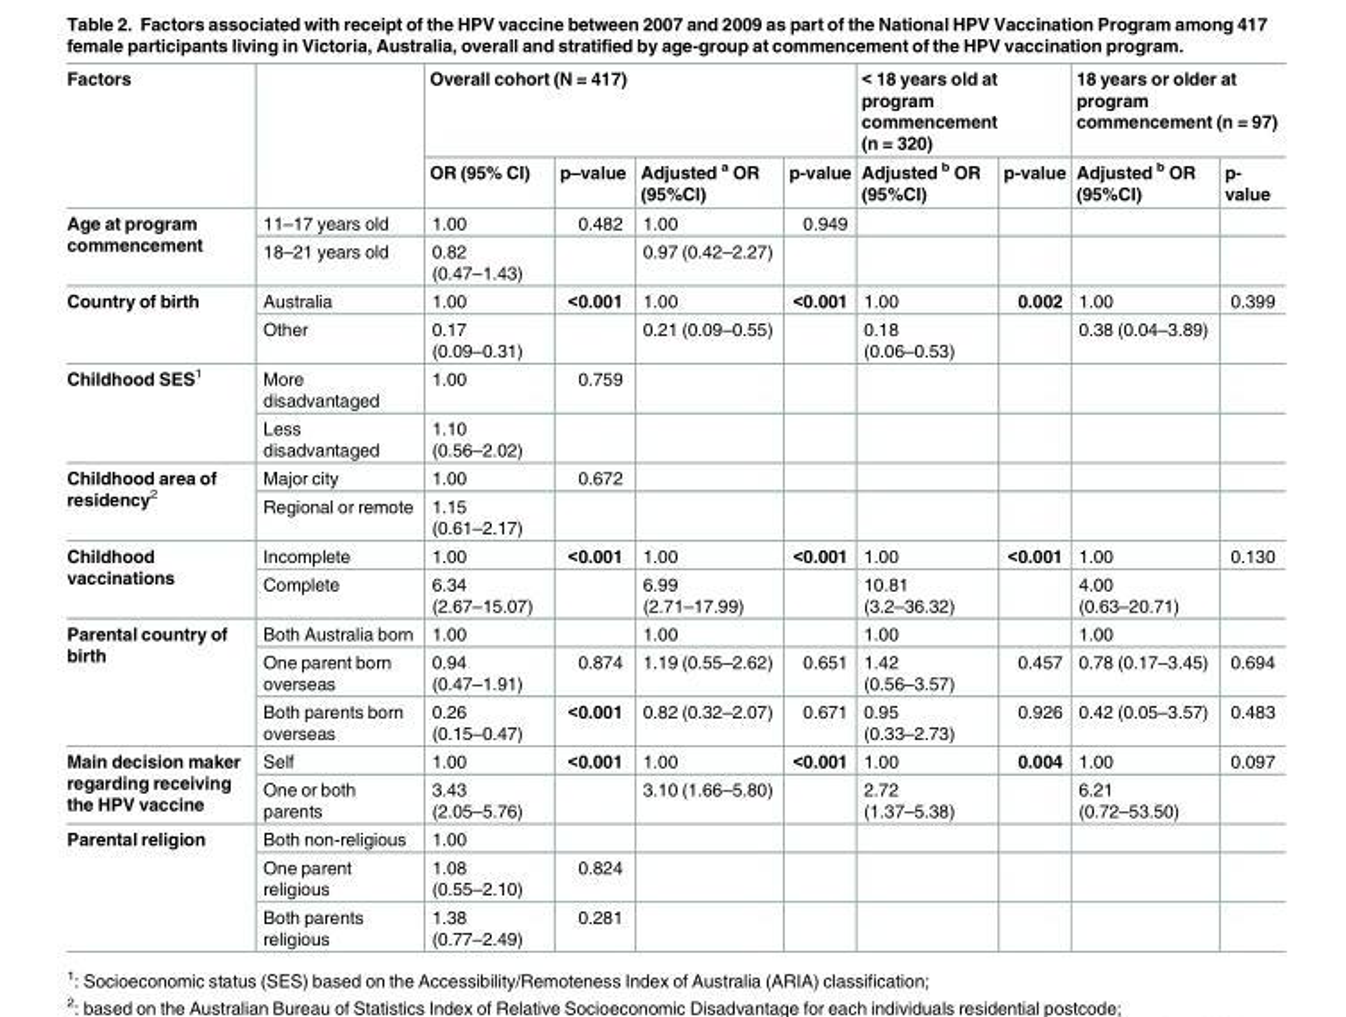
<table><thead><tr><td rowspan="2">Factors</td><td rowspan="2"></td><td colspan="4">Overall cohort (N = 417)</td><td colspan="2">&lt; 18 years old at program commencement (n = 320)</td><td colspan="2">18 years or older at program commencement (n = 97)</td></tr><tr><td>OR (95% CI)</td><td>p–value</td><td>Adjusted <sup>a</sup> OR (95%CI)</td><td>p-value</td><td>Adjusted <sup>b</sup> OR (95%CI)</td><td>p-value</td><td>Adjusted <sup>b</sup> OR (95%CI)</td><td>p- value</td></tr></thead><tbody><tr><td rowspan="2">Age at program commencement</td><td>11–17 years old</td><td>1.00</td><td>0.482</td><td>1.00</td><td>0.949</td><td></td><td></td><td></td><td></td></tr><tr><td>18–21 years old</td><td>0.82 (0.47–1.43)</td><td></td><td>0.97 (0.42–2.27)</td><td></td><td></td><td></td><td></td><td></td></tr><tr><td rowspan="2">Country of birth</td><td>Australia</td><td>1.00</td><td>&lt;0.001</td><td>1.00</td><td>&lt;0.001</td><td>1.00</td><td>0.002</td><td>1.00</td><td>0.399</td></tr><tr><td>Other</td><td>0.17 (0.09–0.31)</td><td></td><td>0.21 (0.09–0.55)</td><td></td><td>0.18 (0.06–0.53)</td><td></td><td>0.38 (0.04–3.89)</td><td></td></tr><tr><td rowspan="2">Childhood SES<sup>1</sup></td><td>More disadvantaged</td><td>1.00</td><td>0.759</td><td></td><td></td><td></td><td></td><td></td><td></td></tr><tr><td>Less disadvantaged</td><td>1.10 (0.56–2.02)</td><td></td><td></td><td></td><td></td><td></td><td></td><td></td></tr><tr><td rowspan="2">Childhood area of residency<sup>2</sup></td><td>Major city</td><td>1.00</td><td>0.672</td><td></td><td></td><td></td><td></td><td></td><td></td></tr><tr><td>Regional or remote</td><td>1.15 (0.61–2.17)</td><td></td><td></td><td></td><td></td><td></td><td></td><td></td></tr><tr><td rowspan="2">Childhood vaccinations</td><td>Incomplete</td><td>1.00</td><td>&lt;0.001</td><td>1.00</td><td>&lt;0.001</td><td>1.00</td><td>&lt;0.001</td><td>1.00</td><td>0.130</td></tr><tr><td>Complete</td><td>6.34 (2.67–15.07)</td><td></td><td>6.99 (2.71–17.99)</td><td></td><td>10.81 (3.2–36.32)</td><td></td><td>4.00 (0.63–20.71)</td><td></td></tr><tr><td rowspan="3">Parental country of birth</td><td>Both Australia born</td><td>1.00</td><td></td><td>1.00</td><td></td><td>1.00</td><td></td><td>1.00</td><td></td></tr><tr><td>One parent born overseas</td><td>0.94 (0.47–1.91)</td><td>0.874</td><td>1.19 (0.55–2.62)</td><td>0.651</td><td>1.42 (0.56–3.57)</td><td>0.457</td><td>0.78 (0.17–3.45)</td><td>0.694</td></tr><tr><td>Both parents born overseas</td><td>0.26 (0.15–0.47)</td><td>&lt;0.001</td><td>0.82 (0.32–2.07)</td><td>0.671</td><td>0.95 (0.33–2.73)</td><td>0.926</td><td>0.42 (0.05–3.57)</td><td>0.483</td></tr><tr><td rowspan="2">Main decision maker regarding receiving the HPV vaccine</td><td>Self</td><td>1.00</td><td>&lt;0.001</td><td>1.00</td><td>&lt;0.001</td><td>1.00</td><td>0.004</td><td>1.00</td><td>0.097</td></tr><tr><td>One or both parents</td><td>3.43 (2.05–5.76)</td><td></td><td>3.10 (1.66–5.80)</td><td></td><td>2.72 (1.37–5.38)</td><td></td><td>6.21 (0.72–53.50)</td><td></td></tr><tr><td rowspan="3">Parental religion</td><td>Both non-religious</td><td>1.00</td><td></td><td></td><td></td><td></td><td></td><td></td><td></td></tr><tr><td>One parent religious</td><td>1.08 (0.55–2.10)</td><td>0.824</td><td></td><td></td><td></td><td></td><td></td><td></td></tr><tr><td>Both parents religious</td><td>1.38 (0.77–2.49)</td><td>0.281</td><td></td><td></td><td></td><td></td><td></td><td></td></tr></tbody></table>